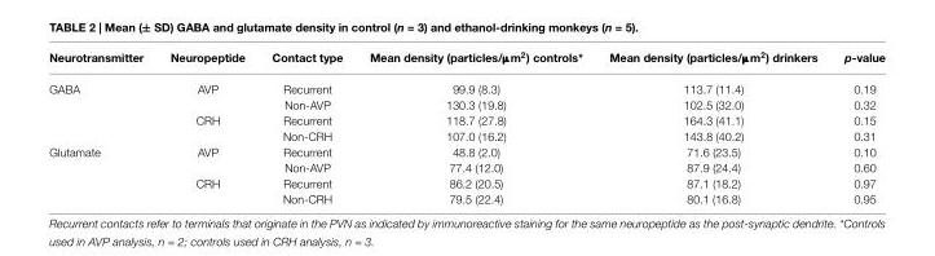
<table><thead><tr><td>Neurotransmitter</td><td>Neuropeptide</td><td>Contact type</td><td>Mean density (particles/µµµm2) controls*</td><td>Mean density (particles/µµµm2) drinkers</td><td>p-value</td></tr></thead><tbody><tr><td rowspan="4">GABA</td><td>AVP</td><td>Recurrent</td><td>99.9 (8.3)</td><td>113.7 (11.4)</td><td>0.19</td></tr><tr><td></td><td>Non-AVP</td><td>130.3 (19.8)</td><td>102.5 (32.0)</td><td>0.32</td></tr><tr><td>CRH</td><td>Recurrent</td><td>118.7 (27.8)</td><td>164.3 (41.1)</td><td>0.15</td></tr><tr><td></td><td>Non-CRH</td><td>107.0 (16.2)</td><td>143.8 (40.2)</td><td>0.31</td></tr><tr><td rowspan="4">Glutamate</td><td>AVP</td><td>Recurrent</td><td>48.8 (2.0)</td><td>71.6 (23.5)</td><td>0.10</td></tr><tr><td></td><td>Non-AVP</td><td>77.4 (12.0)</td><td>87.9 (24.4)</td><td>0.60</td></tr><tr><td>CRH</td><td>Recurrent</td><td>86.2 (20.5)</td><td>87.1 (18.2)</td><td>0.97</td></tr><tr><td></td><td>Non-CRH</td><td>79.5 (22.4)</td><td>80.1 (16.8)</td><td>0.95</td></tr></tbody></table>